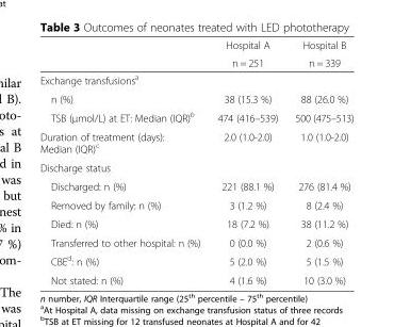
<table><thead><tr><td rowspan="2"></td><td rowspan="2">Hospital A n = 251</td><td rowspan="2">Hospital B n = 339</td></tr><tr></tr></thead><tbody><tr><td colspan="3">Exchange transfusions<sup>a</sup></td></tr><tr><td>n (%)</td><td>38 (15.3 %)</td><td>88 (26.0 %)</td></tr><tr><td>TSB (μmol/L) at ET: Median (IQR)<sup>b</sup></td><td>474 (416–539)</td><td>500 (475–513)</td></tr><tr><td>Duration of treatment (days): Median (IQR)<sup>c</sup></td><td>2.0 (1.0-2.0)</td><td>1.0 (1.0-2.0)</td></tr><tr><td colspan="3">Discharge status</td></tr><tr><td>Discharged: n (%)</td><td>221 (88.1 %)</td><td>276 (81.4 %)</td></tr><tr><td>Removed by family: n (%)</td><td>3 (1.2 %)</td><td>8 (2.4 %)</td></tr><tr><td>Died: n (%)</td><td>18 (7.2 %)</td><td>38 (11.2 %)</td></tr><tr><td>Transferred to other hospital: n (%)</td><td>0 (0.0 %)</td><td>2 (0.6 %)</td></tr><tr><td>CBE<sup>d</sup>: n (%)</td><td>5 (2.0 %)</td><td>5 (1.5 %)</td></tr><tr><td>Not stated: n (%)</td><td>4 (1.6 %)</td><td>10 (3.0 %)</td></tr></tbody></table>